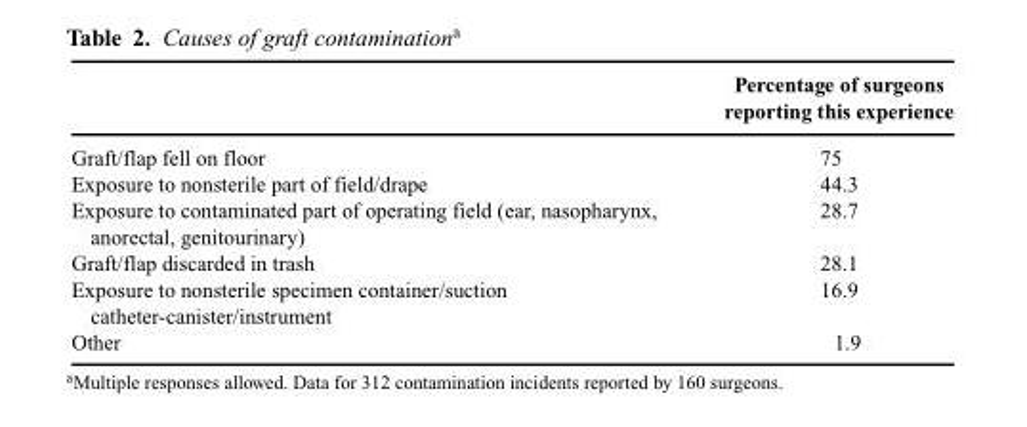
<table><thead><tr><td></td><td>Percentage of surgeons reporting this experience</td></tr></thead><tbody><tr><td>Graft/flap fell on floor</td><td>75</td></tr><tr><td>Exposure to nonsterile part of field/drape</td><td>44.3</td></tr><tr><td>Exposure to contaminated part of operating field (ear, nasopharynx, anorectal, genitourinary)</td><td>28.7</td></tr><tr><td>Graft/flap discarded in trash</td><td>28.1</td></tr><tr><td>Exposure to nonsterile specimen container/suction catheter-canister/instrument</td><td>16.9</td></tr><tr><td>Other</td><td>1.9</td></tr></tbody></table>